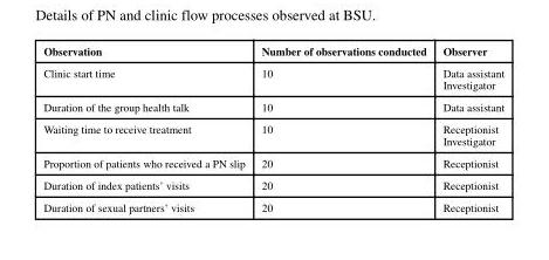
<table><thead><tr><td>Observation</td><td>Number of observations conducted</td><td>Observer</td></tr></thead><tbody><tr><td>Clinic start time</td><td>10</td><td>Data assistant Investigator</td></tr><tr><td>Duration of the group health talk</td><td>10</td><td>Data assistant</td></tr><tr><td>Waiting time to receive treatment</td><td>10</td><td>Receptionist Investigator</td></tr><tr><td>Proportion of patients who received a PN slip</td><td>20</td><td>Receptionist</td></tr><tr><td>Duration of index patients’ visits</td><td>20</td><td>Receptionist</td></tr><tr><td>Duration of sexual partners’ visits</td><td>20</td><td>Receptionist</td></tr></tbody></table>